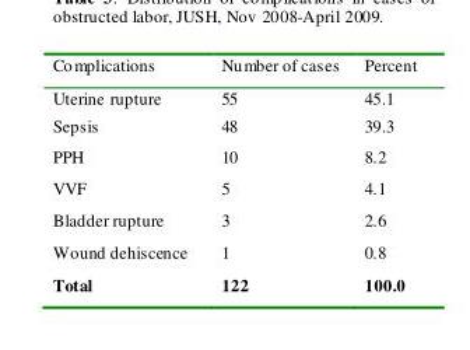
<table><thead><tr><td>Complications</td><td>Number of cases</td><td>Percent</td></tr></thead><tbody><tr><td>Uterine rupture</td><td>55</td><td>45.1</td></tr><tr><td>Sepsis</td><td>48</td><td>39.3</td></tr><tr><td>PPH</td><td>10</td><td>8.2</td></tr><tr><td>VVF</td><td>5</td><td>4.1</td></tr><tr><td>Bladder rupture</td><td>3</td><td>2.6</td></tr><tr><td>Wound dehiscence</td><td>1</td><td>0.8</td></tr><tr><td>Total</td><td>122</td><td>100.0</td></tr></tbody></table>